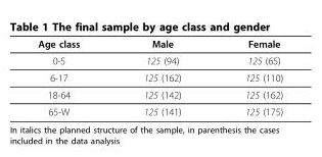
<table><thead><tr><td>Age class</td><td>Male</td><td>Female</td></tr></thead><tbody><tr><td>0-5</td><td>125 (94)</td><td>125 (65)</td></tr><tr><td>6-17</td><td>125 (162)</td><td>125 (110)</td></tr><tr><td>18-64</td><td>125 (142)</td><td>125 (162)</td></tr><tr><td>65-W</td><td>125 (141)</td><td>125 (175)</td></tr></tbody></table>